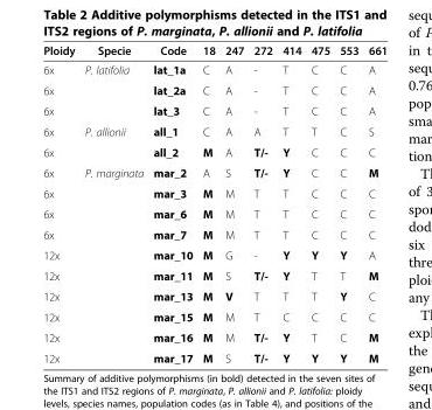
<table><thead><tr><td>Ploidy</td><td>Specie</td><td>Code</td><td>18</td><td>247</td><td>272</td><td>414</td><td>475</td><td>553</td><td>661</td></tr></thead><tbody><tr><td>6x</td><td>P. latifolia</td><td>lat_1a</td><td>C</td><td>A</td><td>-</td><td>T</td><td>C</td><td>C</td><td>A</td></tr><tr><td>6x</td><td></td><td>lat_2a</td><td>C</td><td>A</td><td>-</td><td>T</td><td>C</td><td>C</td><td>A</td></tr><tr><td>6x</td><td></td><td>lat_3</td><td>C</td><td>A</td><td>-</td><td>T</td><td>C</td><td>C</td><td>A</td></tr><tr><td>6x</td><td>P. allionii</td><td>all_1</td><td>C</td><td>A</td><td>A</td><td>T</td><td>T</td><td>C</td><td>S</td></tr><tr><td>6x</td><td></td><td>all_2</td><td>M</td><td>A</td><td>T/-</td><td>Y</td><td>C</td><td>C</td><td>C</td></tr><tr><td>6x</td><td>P. marginata</td><td>mar_2</td><td>A</td><td>S</td><td>T/-</td><td>Y</td><td>C</td><td>C</td><td>M</td></tr><tr><td>6x</td><td></td><td>mar_3</td><td>M</td><td>M</td><td>T</td><td>T</td><td>C</td><td>C</td><td>C</td></tr><tr><td>6x</td><td></td><td>mar_6</td><td>M</td><td>M</td><td>T</td><td>T</td><td>C</td><td>C</td><td>C</td></tr><tr><td>6x</td><td></td><td>mar_7</td><td>M</td><td>M</td><td>T</td><td>T</td><td>C</td><td>C</td><td>C</td></tr><tr><td>12x</td><td></td><td>mar_10</td><td>M</td><td>G</td><td>-</td><td>Y</td><td>Y</td><td>Y</td><td>A</td></tr><tr><td>12x</td><td></td><td>mar_11</td><td>M</td><td>S</td><td>T/-</td><td>Y</td><td>T</td><td>T</td><td>M</td></tr><tr><td>12x</td><td></td><td>mar_13</td><td>M</td><td>V</td><td>T</td><td>T</td><td>T</td><td>Y</td><td>C</td></tr><tr><td>12x</td><td></td><td>mar_15</td><td>M</td><td>M</td><td>T</td><td>C</td><td>C</td><td>C</td><td>C</td></tr><tr><td>12x</td><td></td><td>mar_16</td><td>M</td><td>M</td><td>T/-</td><td>Y</td><td>T</td><td>C</td><td>M</td></tr><tr><td>12x</td><td></td><td>mar_17</td><td>M</td><td>S</td><td>T/-</td><td>Y</td><td>Y</td><td>Y</td><td>M</td></tr></tbody></table>